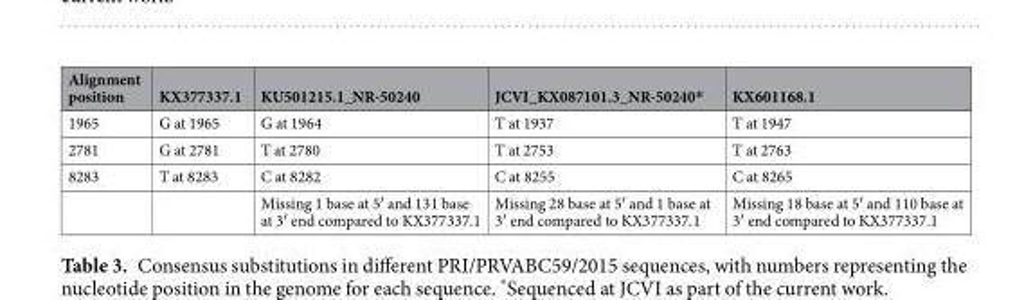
<table><thead><tr><td>Alignment position</td><td>KX377337.1</td><td>KU501215.1_NR-50240</td><td>JCVI_KX087101.3_NR-50240*</td><td>KX601168.1</td></tr></thead><tbody><tr><td>1965</td><td>G at 1965</td><td>G at 1964</td><td>T at 1937</td><td>T at 1947</td></tr><tr><td>2781</td><td>G at 2781</td><td>T at 2780</td><td>T at 2753</td><td>T at 2763</td></tr><tr><td rowspan="2">8283</td><td>T at 8283</td><td>C at 8282</td><td>C at 8255</td><td>C at 8265</td></tr><tr><td></td><td>Missing 1 base at 5′ and 131 base at 3′ end compared to KX377337.1</td><td>Missing 28 base at 5′ and 1 base at 3′ end compared to KX377337.1</td><td>Missing 18 base at 5′ and 110 base at 3′ end compared to KX377337.1</td></tr></tbody></table>